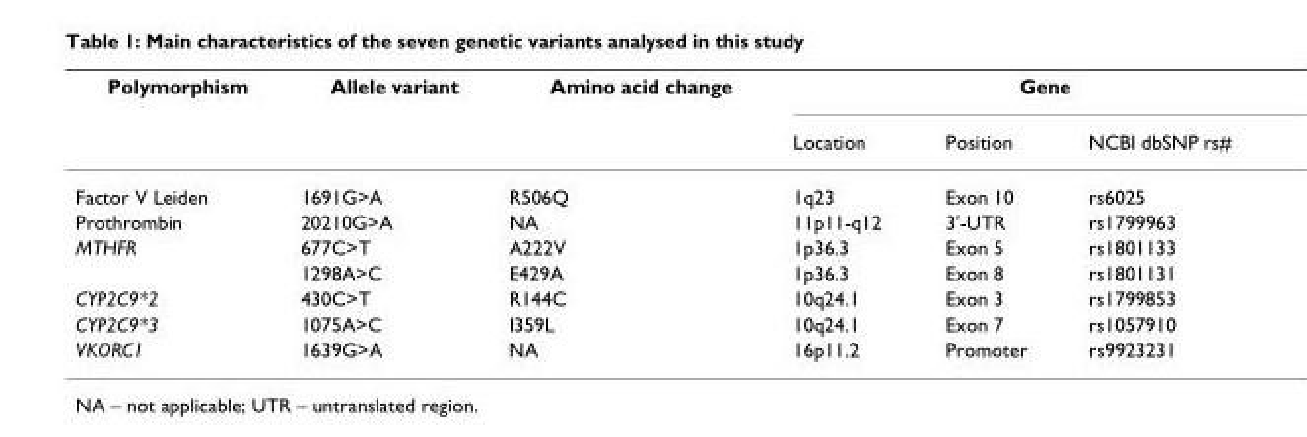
<table><thead><tr><td rowspan="2">Polymorphism</td><td rowspan="2">Allele variant</td><td rowspan="2">Amino acid change</td><td colspan="3">Gene</td></tr><tr><td>Location</td><td>Position</td><td>NCBI dbSNP rs#</td></tr></thead><tbody><tr><td>Factor V Leiden</td><td>1691G&gt;A</td><td>R506Q</td><td>1q23</td><td>Exon 10</td><td>rs6025</td></tr><tr><td>Prothrombin</td><td>20210G&gt;A</td><td>NA</td><td>11p11-q12</td><td>3&#x27;-UTR</td><td>rs1799963</td></tr><tr><td rowspan="2">MTHFR</td><td>677C&gt;T</td><td>A222V</td><td>1p36.3</td><td>Exon 5</td><td>rs1801133</td></tr><tr><td>1298A&gt;C</td><td>E429A</td><td>1p36.3</td><td>Exon 8</td><td>rs1801131</td></tr><tr><td>CYP2C9*2</td><td>430C&gt;T</td><td>R144C</td><td>10q24.1</td><td>Exon 3</td><td>rs1799853</td></tr><tr><td>CYP2C9*3</td><td>1075A&gt;C</td><td>I359L</td><td>10q24.1</td><td>Exon 7</td><td>rs1057910</td></tr><tr><td>VKORC1</td><td>1639G&gt;A</td><td>NA</td><td>16p11.2</td><td>Promoter</td><td>rs9923231</td></tr></tbody></table>